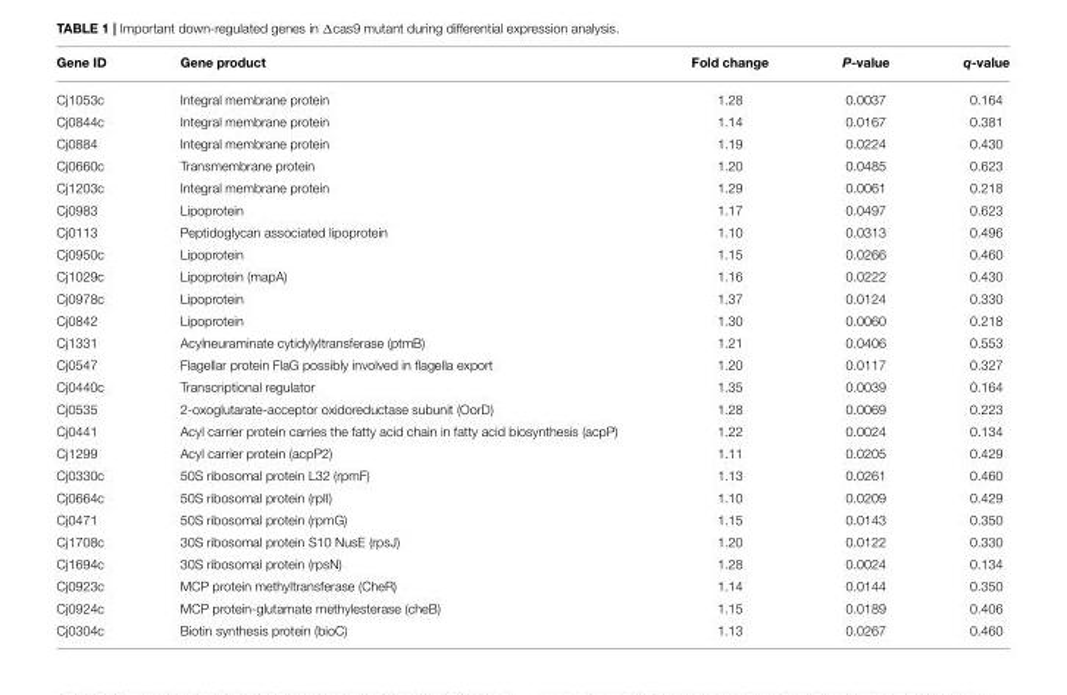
<table><thead><tr><td>Gene ID</td><td>Gene product</td><td>Fold change</td><td>P-value</td><td>q-value</td></tr></thead><tbody><tr><td>Cj1053c</td><td>Integral membrane protein</td><td>1.28</td><td>0.0037</td><td>0.164</td></tr><tr><td>Cj0844c</td><td>Integral membrane protein</td><td>1.14</td><td>0.0167</td><td>0.381</td></tr><tr><td>Cj0884</td><td>Integral membrane protein</td><td>1.19</td><td>0.0224</td><td>0.430</td></tr><tr><td>Cj0660c</td><td>Transmembrane protein</td><td>1.20</td><td>0.0485</td><td>0.623</td></tr><tr><td>Cj1203c</td><td>Integral membrane protein</td><td>1.29</td><td>0.0061</td><td>0.218</td></tr><tr><td>Cj0983</td><td>Lipoprotein</td><td>1.17</td><td>0.0497</td><td>0.623</td></tr><tr><td>Cj0113</td><td>Peptidoglycan associated lipoprotein</td><td>1.10</td><td>0.0313</td><td>0.496</td></tr><tr><td>Cj0950c</td><td>Lipoprotein</td><td>1.15</td><td>0.0266</td><td>0.460</td></tr><tr><td>Cj1029c</td><td>Lipoprotein (mapA)</td><td>1.16</td><td>0.0222</td><td>0.430</td></tr><tr><td>Cj0978c</td><td>Lipoprotein</td><td>1.37</td><td>0.0124</td><td>0.330</td></tr><tr><td>Cj0842</td><td>Lipoprotein</td><td>1.30</td><td>0.0060</td><td>0.218</td></tr><tr><td>Cj1331</td><td>Acylneuraminate cytidylyltransferase (ptmB)</td><td>1.21</td><td>0.0406</td><td>0.553</td></tr><tr><td>Cj0547</td><td>Flagellar protein FlaG possibly involved in flagella export</td><td>1.20</td><td>0.0117</td><td>0.327</td></tr><tr><td>Cj0440c</td><td>Transcriptional regulator</td><td>1.35</td><td>0.0039</td><td>0.164</td></tr><tr><td>Cj0535</td><td>2-oxoglutarate-acceptor oxidoreductase subunit (OorD)</td><td>1.28</td><td>0.0069</td><td>0.223</td></tr><tr><td>Cj0441</td><td>Acyl carrier protein carries the fatty acid chain in fatty acid biosynthesis (acpP)</td><td>1.22</td><td>0.0024</td><td>0.134</td></tr><tr><td>Cj1299</td><td>Acyl carrier protein (acpP2)</td><td>1.11</td><td>0.0205</td><td>0.429</td></tr><tr><td>Cj0330c</td><td>50S ribosomal protein L32 (rpmF)</td><td>1.13</td><td>0.0261</td><td>0.460</td></tr><tr><td>Cj0664c</td><td>50S ribosomal protein (rplI)</td><td>1.10</td><td>0.0209</td><td>0.429</td></tr><tr><td>Cj0471</td><td>50S ribosomal protein (rpmG)</td><td>1.15</td><td>0.0143</td><td>0.350</td></tr><tr><td>Cj1708c</td><td>30S ribosomal protein S10 NusE (rpsJ)</td><td>1.20</td><td>0.0122</td><td>0.330</td></tr><tr><td>Cj1694c</td><td>30S ribosomal protein (rpsN)</td><td>1.28</td><td>0.0024</td><td>0.134</td></tr><tr><td>Cj0923c</td><td>MCP protein methyltransferase (CheR)</td><td>1.14</td><td>0.0144</td><td>0.350</td></tr><tr><td>Cj0924c</td><td>MCP protein-glutamate methylesterase (cheB)</td><td>1.15</td><td>0.0189</td><td>0.406</td></tr><tr><td>Cj0304c</td><td>Biotin synthesis protein (bioC)</td><td>1.13</td><td>0.0267</td><td>0.460</td></tr></tbody></table>